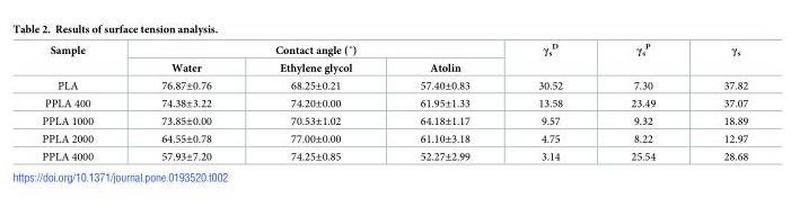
<table><thead><tr><td rowspan="2">Sample</td><td colspan="3">Contact angle (˚)</td><td rowspan="2">γ<sub>s</sub> <sup>D</sup></td><td rowspan="2">γ<sub>s</sub> <sup>P</sup></td><td rowspan="2">γ<sub>s</sub></td></tr><tr><td>Water</td><td>Ethylene glycol</td><td>Atolin</td></tr></thead><tbody><tr><td>PLA</td><td>76.87±0.76</td><td>68.25±0.21</td><td>57.40±0.83</td><td>30.52</td><td>7.30</td><td>37.82</td></tr><tr><td>PPLA 400</td><td>74.38±3.22</td><td>74.20±0.00</td><td>61.95±1.33</td><td>13.58</td><td>23.49</td><td>37.07</td></tr><tr><td>PPLA 1000</td><td>73.85±0.00</td><td>70.53±1.02</td><td>64.18±1.17</td><td>9.57</td><td>9.32</td><td>18.89</td></tr><tr><td>PPLA 2000</td><td>64.55±0.78</td><td>77.00±0.00</td><td>61.10±3.18</td><td>4.75</td><td>8.22</td><td>12.97</td></tr><tr><td>PPLA 4000</td><td>57.93±7.20</td><td>74.25±0.85</td><td>52.27±2.99</td><td>3.14</td><td>25.54</td><td>28.68</td></tr></tbody></table>